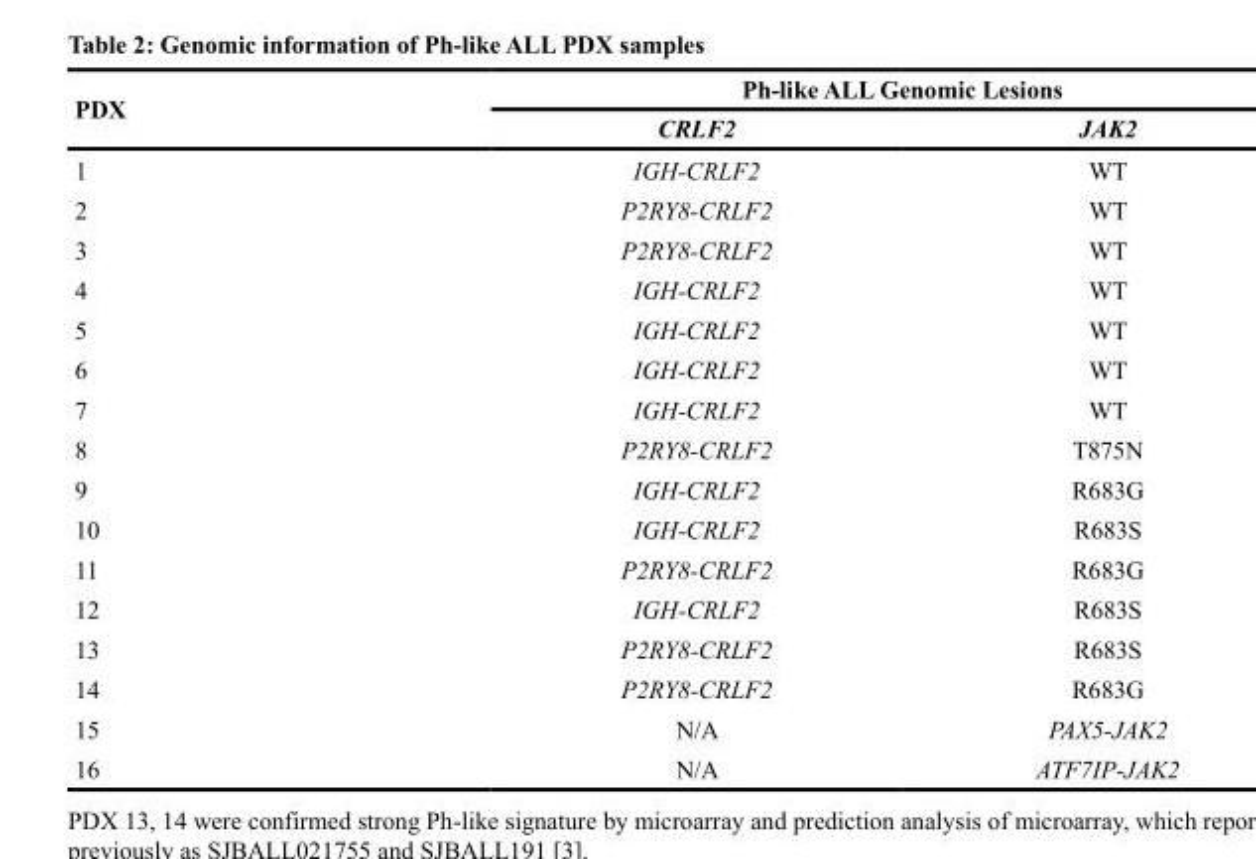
<table><thead><tr><td rowspan="2">PDX</td><td colspan="2">Ph-like ALL Genomic Lesions</td></tr><tr><td>CRLF2</td><td>JAK2</td></tr></thead><tbody><tr><td>1</td><td>IGH-CRLF2</td><td>WT</td></tr><tr><td>2</td><td>P2RY8-CRLF2</td><td>WT</td></tr><tr><td>3</td><td>P2RY8-CRLF2</td><td>WT</td></tr><tr><td>4</td><td>IGH-CRLF2</td><td>WT</td></tr><tr><td>5</td><td>IGH-CRLF2</td><td>WT</td></tr><tr><td>6</td><td>IGH-CRLF2</td><td>WT</td></tr><tr><td>7</td><td>IGH-CRLF2</td><td>WT</td></tr><tr><td>8</td><td>P2RY8-CRLF2</td><td>T875N</td></tr><tr><td>9</td><td>IGH-CRLF2</td><td>R683G</td></tr><tr><td>10</td><td>IGH-CRLF2</td><td>R683S</td></tr><tr><td>11</td><td>P2RY8-CRLF2</td><td>R683G</td></tr><tr><td>12</td><td>IGH-CRLF2</td><td>R683S</td></tr><tr><td>13</td><td>P2RY8-CRLF2</td><td>R683S</td></tr><tr><td>14</td><td>P2RY8-CRLF2</td><td>R683G</td></tr><tr><td>15</td><td>N/A</td><td>PAX5-JAK2</td></tr><tr><td>16</td><td>N/A</td><td>ATF7IP-JAK2</td></tr></tbody></table>